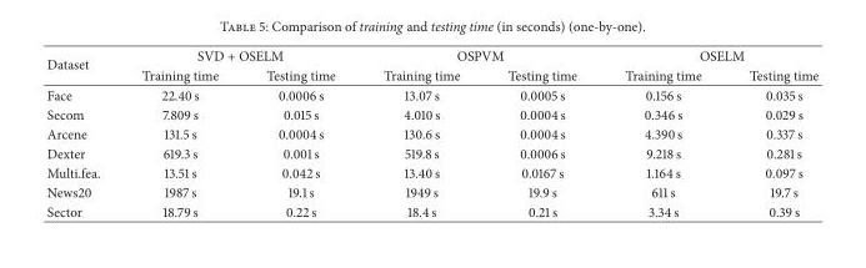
<table><thead><tr><td rowspan="2">Dataset</td><td colspan="2">SVD + OSELM</td><td colspan="2">OSPVM</td><td colspan="2">OSELM</td></tr><tr><td>Training time</td><td>Testing time</td><td>Training time</td><td>Testing time</td><td>Training time</td><td>Testing time</td></tr></thead><tbody><tr><td>Face</td><td>22.40 s</td><td>0.0006 s</td><td>13.07 s</td><td>0.0005 s</td><td>0.156 s</td><td>0.035 s</td></tr><tr><td>Secom</td><td>7.809 s</td><td>0.015 s</td><td>4.010 s</td><td>0.0004 s</td><td>0.346 s</td><td>0.029 s</td></tr><tr><td>Arcene</td><td>131.5 s</td><td>0.0004 s</td><td>130.6 s</td><td>0.0004 s</td><td>4.390 s</td><td>0.337 s</td></tr><tr><td>Dexter</td><td>619.3 s</td><td>0.001 s</td><td>519.8 s</td><td>0.0006 s</td><td>9.218 s</td><td>0.281 s</td></tr><tr><td>Multi.fea.</td><td>13.51 s</td><td>0.042 s</td><td>13.40 s</td><td>0.0167 s</td><td>1.164 s</td><td>0.097 s</td></tr><tr><td>News20</td><td>1987 s</td><td>19.1 s</td><td>1949 s</td><td>19.9 s</td><td>611 s</td><td>19.7 s</td></tr><tr><td>Sector</td><td>18.79 s</td><td>0.22 s</td><td>18.4 s</td><td>0.21 s</td><td>3.34 s</td><td>0.39 s</td></tr></tbody></table>